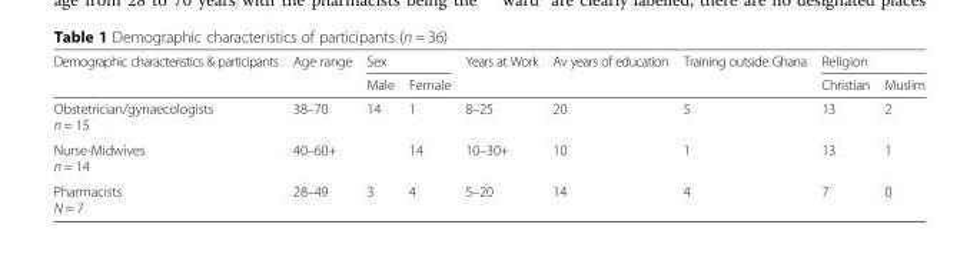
<table><thead><tr><td rowspan="2">Demographic characteristics &amp; participants</td><td rowspan="2">Age range</td><td colspan="2">Sex</td><td rowspan="2">Years at Work</td><td rowspan="2">Av years of education</td><td rowspan="2">Training outside Ghana</td><td colspan="2">Religion</td></tr><tr><td>Male</td><td>Female</td><td>Christian</td><td>Muslim</td></tr></thead><tbody><tr><td>Obstetrician/gynaecologists n = 15</td><td>38–70</td><td>14</td><td>1</td><td>8–25</td><td>20</td><td>5</td><td>13</td><td>2</td></tr><tr><td>Nurse-Midwives n = 14</td><td>40–60+</td><td></td><td>14</td><td>10–30+</td><td>10</td><td>1</td><td>13</td><td>1</td></tr><tr><td>Pharmacists N = 7</td><td>28–49</td><td>3</td><td>4</td><td>5–20</td><td>14</td><td>4</td><td>7</td><td>0</td></tr></tbody></table>